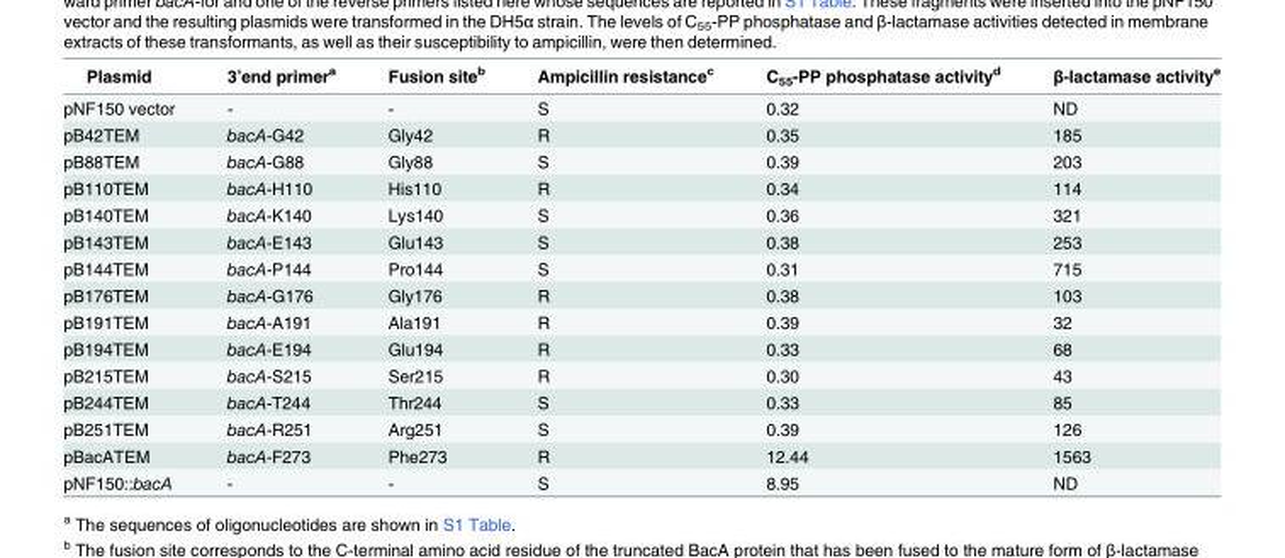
<table><thead><tr><td>Plasmid</td><td>3’end primer<sup>a</sup></td><td>Fusion site<sup>b</sup></td><td>Ampicillin resistance<sup>c</sup></td><td>C<sub>55</sub>-PP phosphatase activity<sup>d</sup></td><td>β-lactamase activity<sup>e</sup></td></tr></thead><tbody><tr><td>pNF150 vector</td><td>-</td><td>-</td><td>S</td><td>0.32</td><td>ND</td></tr><tr><td>pB42TEM</td><td>bacA-G42</td><td>Gly42</td><td>R</td><td>0.35</td><td>185</td></tr><tr><td>pB88TEM</td><td>bacA-G88</td><td>Gly88</td><td>S</td><td>0.39</td><td>203</td></tr><tr><td>pB110TEM</td><td>bacA-H110</td><td>His110</td><td>R</td><td>0.34</td><td>114</td></tr><tr><td>pB140TEM</td><td>bacA-K140</td><td>Lys140</td><td>S</td><td>0.36</td><td>321</td></tr><tr><td>pB143TEM</td><td>bacA-E143</td><td>Glu143</td><td>S</td><td>0.38</td><td>253</td></tr><tr><td>pB144TEM</td><td>bacA-P144</td><td>Pro144</td><td>S</td><td>0.31</td><td>715</td></tr><tr><td>pB176TEM</td><td>bacA-G176</td><td>Gly176</td><td>R</td><td>0.38</td><td>103</td></tr><tr><td>pB191TEM</td><td>bacA-A191</td><td>Ala191</td><td>R</td><td>0.39</td><td>32</td></tr><tr><td>pB194TEM</td><td>bacA-E194</td><td>Glu194</td><td>R</td><td>0.33</td><td>68</td></tr><tr><td>pB215TEM</td><td>bacA-S215</td><td>Ser215</td><td>R</td><td>0.30</td><td>43</td></tr><tr><td>pB244TEM</td><td>bacA-T244</td><td>Thr244</td><td>S</td><td>0.33</td><td>85</td></tr><tr><td>pB251TEM</td><td>bacA-R251</td><td>Arg251</td><td>S</td><td>0.39</td><td>126</td></tr><tr><td>pBacATEM</td><td>bacA-F273</td><td>Phe273</td><td>R</td><td>12.44</td><td>1563</td></tr><tr><td>pNF150::bacA</td><td>-</td><td>-</td><td>S</td><td>8.95</td><td>ND</td></tr></tbody></table>